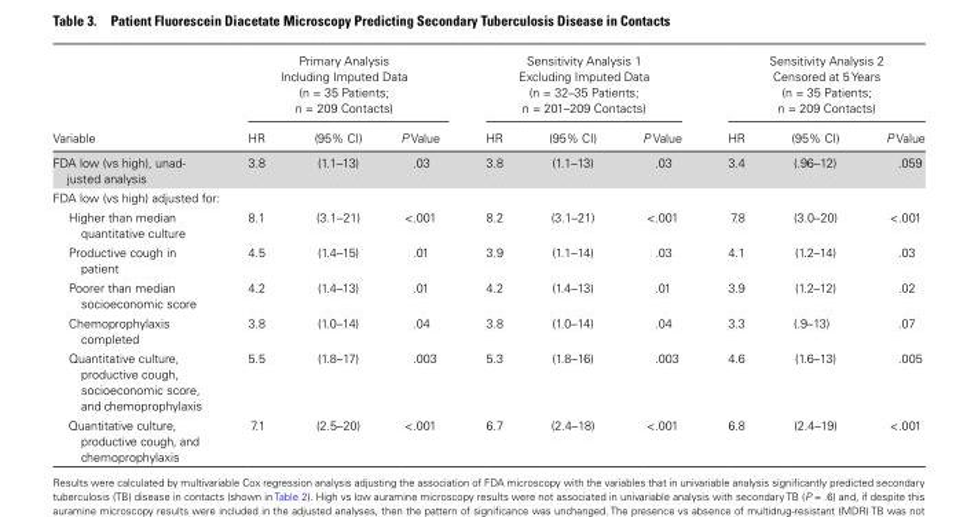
<table><thead><tr><td rowspan="2">Variable</td><td colspan="3">Primary Analysis Including Imputed Data (n = 35 Patients; n = 209 Contacts)</td><td colspan="3">Sensitivity Analysis 1 Excluding Imputed Data (n = 32–35 Patients; n = 201–209 Contacts)</td><td colspan="3">Sensitivity Analysis 2 Censored at 5 Years (n = 35 Patients; n = 209 Contacts)</td></tr><tr><td>HR</td><td>(95% CI)</td><td>P Value</td><td>HR</td><td>(95% CI)</td><td>P Value</td><td>HR</td><td>(95% CI)</td><td>P Value</td></tr></thead><tbody><tr><td>FDA low (vs high), unad- justed analysis</td><td>3.8</td><td>(1.1–13)</td><td>.03</td><td>3.8</td><td>(1.1–13)</td><td>.03</td><td>3.4</td><td>(.96–12)</td><td>.059</td></tr><tr><td colspan="10">FDA low (vs high) adjusted for:</td></tr><tr><td>Higher than median quantitative culture</td><td>8.1</td><td>(3.1–21)</td><td>&lt;.001</td><td>8.2</td><td>(3.1–21)</td><td>&lt;.001</td><td>7.8</td><td>(3.0–20)</td><td>&lt;.001</td></tr><tr><td>Productive cough in patient</td><td>4.5</td><td>(1.4–15)</td><td>.01</td><td>3.9</td><td>(1.1–14)</td><td>.03</td><td>4.1</td><td>(1.2–14)</td><td>.03</td></tr><tr><td>Poorer than median socioeconomic score</td><td>4.2</td><td>(1.4–13)</td><td>.01</td><td>4.2</td><td>(1.4–13)</td><td>.01</td><td>3.9</td><td>(1.2–12)</td><td>.02</td></tr><tr><td>Chemoprophylaxis completed</td><td>3.8</td><td>(1.0–14)</td><td>.04</td><td>3.8</td><td>(1.0–14)</td><td>.04</td><td>3.3</td><td>(.9–13)</td><td>.07</td></tr><tr><td>Quantitative culture, productive cough, socioeconomic score, and chemoprophylaxis</td><td>5.5</td><td>(1.8–17)</td><td>.003</td><td>5.3</td><td>(1.8–16)</td><td>.003</td><td>4.6</td><td>(1.6–13)</td><td>.005</td></tr><tr><td>Quantitative culture, productive cough, and chemoprophylaxis</td><td>7.1</td><td>(2.5–20)</td><td>&lt;.001</td><td>6.7</td><td>(2.4–18)</td><td>&lt;.001</td><td>6.8</td><td>(2.4–19)</td><td>&lt;.001</td></tr></tbody></table>